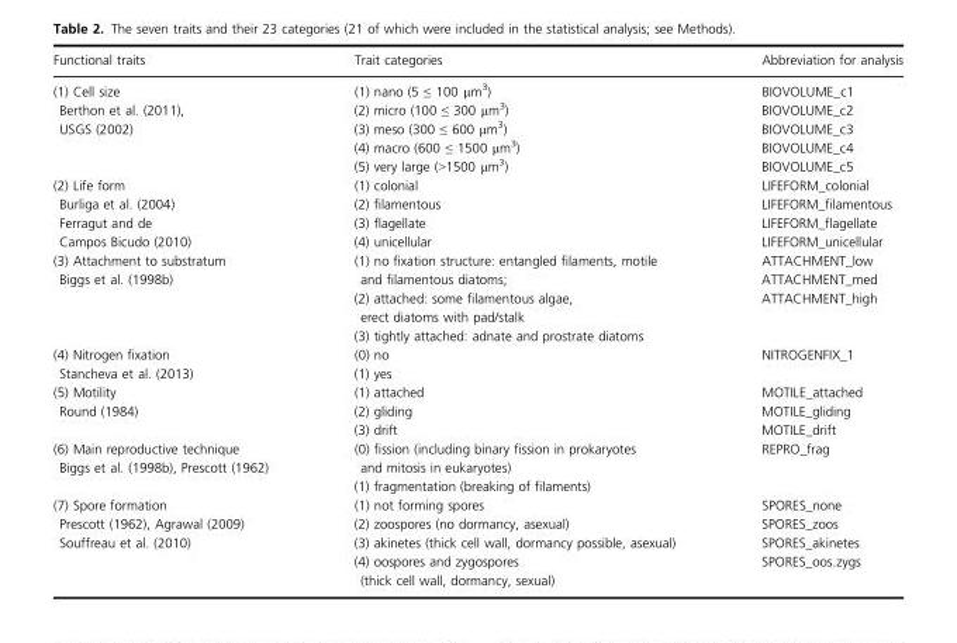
<table><thead><tr><td>Functional traits</td><td>Trait categories</td><td>Abbreviation for analysis</td></tr></thead><tbody><tr><td>(1) Cell size Berthon et al. (2011), USGS (2002)</td><td>(1) nano (5 ≤ 100 μm<sup>3</sup>) (2) micro (100 ≤ 300 μm<sup>3</sup>) (3) meso (300 ≤ 600 μm<sup>3</sup>) (4) macro (600 ≤ 1500 μm<sup>3</sup>) (5) very large (&gt;1500 μm<sup>3</sup>)</td><td>BIOVOLUME_c1 BIOVOLUME_c2 BIOVOLUME_c3 BIOVOLUME_c4 BIOVOLUME_c5</td></tr><tr><td>(2) Life form Burliga et al. (2004) Ferragut and de Campos Bicudo (2010)</td><td>(1) colonial (2) filamentous (3) flagellate (4) unicellular</td><td>LIFEFORM_colonial LIFEFORM_filamentous LIFEFORM_flagellate LIFEFORM_unicellular</td></tr><tr><td>(3) Attachment to substratum Biggs et al. (1998b)</td><td>(1) no fixation structure: entangled filaments, motile and filamentous diatoms; (2) attached: some filamentous algae, erect diatoms with pad/stalk (3) tightly attached: adnate and prostrate diatoms</td><td>ATTACHMENT_low ATTACHMENT_med ATTACHMENT_high</td></tr><tr><td>(4) Nitrogen fixation Stancheva et al. (2013)</td><td>(0) no (1) yes</td><td>NITROGENFIX_1</td></tr><tr><td>(5) Motility Round (1984)</td><td>(1) attached (2) gliding (3) drift</td><td>MOTILE_attached MOTILE_gliding MOTILE_drift</td></tr><tr><td>(6) Main reproductive technique Biggs et al. (1998b), Prescott (1962)</td><td>(0) fission (including binary fission in prokaryotes and mitosis in eukaryotes) (1) fragmentation (breaking of filaments)</td><td>REPRO_frag</td></tr><tr><td>(7) Spore formation Prescott (1962), Agrawal (2009) Souffreau et al. (2010)</td><td>(1) not forming spores (2) zoospores (no dormancy, asexual) (3) akinetes (thick cell wall, dormancy possible, asexual) (4) oospores and zygospores (thick cell wall, dormancy, sexual)</td><td>SPORES_none SPORES_zoos SPORES_akinetes SPORES_oos.zygs</td></tr></tbody></table>